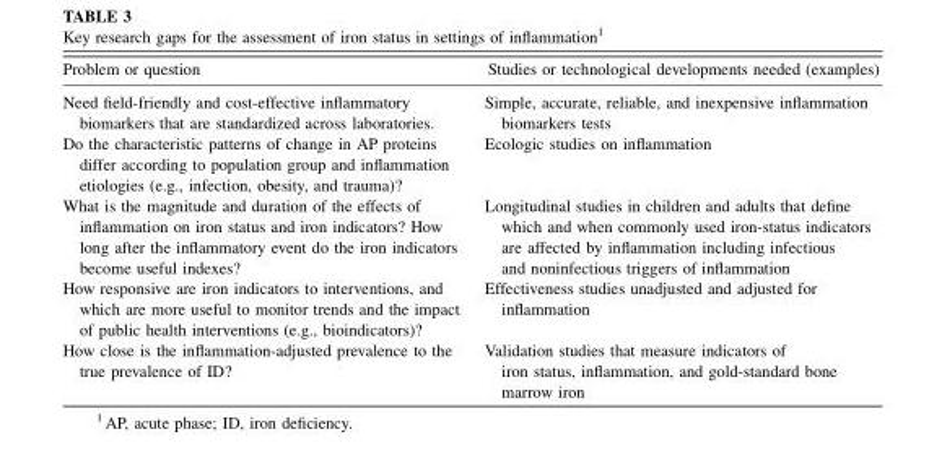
<table><thead><tr><td>Problem or question</td><td>Studies or technological developments needed (examples)</td></tr></thead><tbody><tr><td>Need field-friendly and cost-effective inflammatory biomarkers that are standardized across laboratories.</td><td>Simple, accurate, reliable, and inexpensive inflammation biomarkers tests</td></tr><tr><td>Do the characteristic patterns of change in AP proteins differ according to population group and inflammation etiologies (e.g., infection, obesity, and trauma)?</td><td>Ecologic studies on inflammation</td></tr><tr><td>What is the magnitude and duration of the effects of inflammation on iron status and iron indicators? How long after the inflammatory event do the iron indicators become useful indexes?</td><td>Longitudinal studies in children and adults that define which and when commonly used iron-status indicators are affected by inflammation including infectious and noninfectious triggers of inflammation</td></tr><tr><td>How responsive are iron indicators to interventions, and which are more useful to monitor trends and the impact of public health interventions (e.g., bioindicators)?</td><td>Effectiveness studies unadjusted and adjusted for inflammation</td></tr><tr><td>How close is the inflammation-adjusted prevalence to the true prevalence of ID?</td><td>Validation studies that measure indicators of iron status, inflammation, and gold-standard bone marrow iron</td></tr></tbody></table>